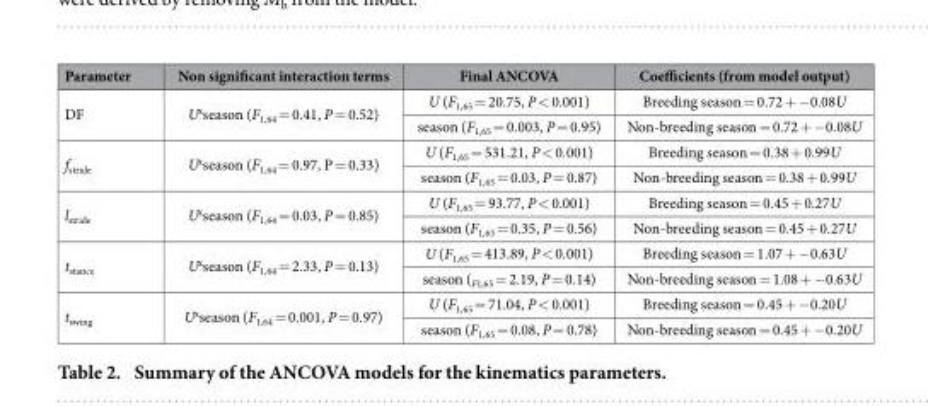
<table><thead><tr><td>Parameter</td><td>Non significant interaction terms</td><td>Final ANCOVA</td><td>Coefficients (from model output)</td></tr></thead><tbody><tr><td rowspan="2">DF</td><td rowspan="2">U<sup>x</sup>season (F<sub>1,64</sub> = 0.41, P = 0.52)</td><td>U (F<sub>1,65</sub> = 20.75, P &lt; 0.001)</td><td>Breeding season = 0.72 + − 0.08U</td></tr><tr><td>season (F<sub>1,65</sub> = 0.003, P = 0.95)</td><td>Non-breeding season = 0.72 + − 0.08U</td></tr><tr><td rowspan="2">f<sub>stride</sub></td><td rowspan="2">U<sup>x</sup>season (F<sub>1,64</sub> = 0.97, P = 0.33)</td><td>U (F<sub>1,65</sub> = 531.21, P &lt; 0.001)</td><td>Breeding season = 0.38 + 0.99U</td></tr><tr><td>season (F<sub>1,65</sub> = 0.03, P = 0.87)</td><td>Non-breeding season = 0.38 + 0.99U</td></tr><tr><td rowspan="2">l<sub>stride</sub></td><td rowspan="2">U<sup>x</sup>season (F<sub>1,64</sub> = 0.03, P = 0.85)</td><td>U (F<sub>1,65</sub> = 93.77, P &lt; 0.001)</td><td>Breeding season = 0.45 + 0.27U</td></tr><tr><td>season (F<sub>1,65</sub> = 0.35, P = 0.56)</td><td>Non-breeding season = 0.45 + 0.27U</td></tr><tr><td rowspan="2">t<sub>stance</sub></td><td rowspan="2">U<sup>x</sup>season (F<sub>1,64</sub> = 2.33, P = 0.13)</td><td>U (F<sub>1,65</sub> = 413.89, P &lt; 0.001)</td><td>Breeding season = 1.07 + − 0.63U</td></tr><tr><td>season (<sub>F1,65</sub> = 2.19, P = 0.14)</td><td>Non-breeding season = 1.08 + − 0.63U</td></tr><tr><td rowspan="2">t<sub>swing</sub></td><td rowspan="2">U<sup>x</sup>season (F<sub>1,64</sub> = 0.001, P = 0.97)</td><td>U (F<sub>1,65</sub> = 71.04, P &lt; 0.001)</td><td>Breeding season = 0.45 + − 0.20U</td></tr><tr><td>season (F<sub>1,65</sub> = 0.08, P = 0.78)</td><td>Non-breeding season = 0.45 + − 0.20U</td></tr></tbody></table>